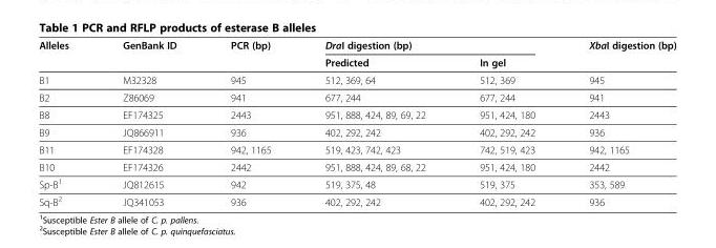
<table><thead><tr><td rowspan="2">Alleles</td><td rowspan="2">GenBank ID</td><td rowspan="2">PCR (bp)</td><td colspan="2">DraI digestion (bp)</td><td rowspan="2">XbaI digestion (bp)</td></tr><tr><td>Predicted</td><td>In gel</td></tr></thead><tbody><tr><td>B1</td><td>M32328</td><td>945</td><td>512, 369, 64</td><td>512, 369</td><td>945</td></tr><tr><td>B2</td><td>Z86069</td><td>941</td><td>677, 244</td><td>677, 244</td><td>941</td></tr><tr><td>B8</td><td>EF174325</td><td>2443</td><td>951, 888, 424, 89, 69, 22</td><td>951, 424, 180</td><td>2443</td></tr><tr><td>B9</td><td>JQ866911</td><td>936</td><td>402, 292, 242</td><td>402, 292, 242</td><td>936</td></tr><tr><td>B11</td><td>EF174328</td><td>942, 1165</td><td>519, 423, 742, 423</td><td>742, 519, 423</td><td>942, 1165</td></tr><tr><td>B10</td><td>EF174326</td><td>2442</td><td>951, 888, 424, 89, 68, 22</td><td>951, 424, 180</td><td>2442</td></tr><tr><td>Sp-B<sup>1</sup></td><td>JQ812615</td><td>942</td><td>519, 375, 48</td><td>519, 375</td><td>353, 589</td></tr><tr><td>Sq-B<sup>2</sup></td><td>JQ341053</td><td>936</td><td>402, 292, 242</td><td>402, 292, 242</td><td>936</td></tr></tbody></table>